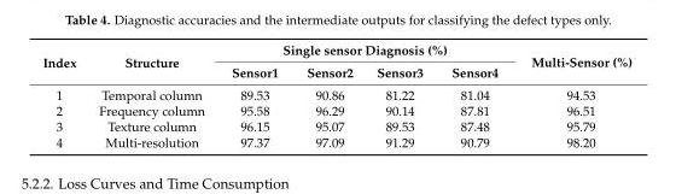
<table><thead><tr><td rowspan="2">Index</td><td rowspan="2">Structure</td><td colspan="4">Single sensor Diagnosis (%)</td><td rowspan="2">Multi-Sensor (%)</td></tr><tr><td>Sensor1</td><td>Sensor2</td><td>Sensor3</td><td>Sensor4</td></tr></thead><tbody><tr><td>1</td><td>Temporal column</td><td>89.53</td><td>90.86</td><td>81.22</td><td>81.04</td><td>94.53</td></tr><tr><td>2</td><td>Frequency column</td><td>95.58</td><td>96.29</td><td>90.14</td><td>87.81</td><td>96.51</td></tr><tr><td>3</td><td>Texture column</td><td>96.15</td><td>95.07</td><td>89.53</td><td>87.48</td><td>95.79</td></tr><tr><td>4</td><td>Multi-resolution</td><td>97.37</td><td>97.09</td><td>91.29</td><td>90.79</td><td>98.20</td></tr></tbody></table>